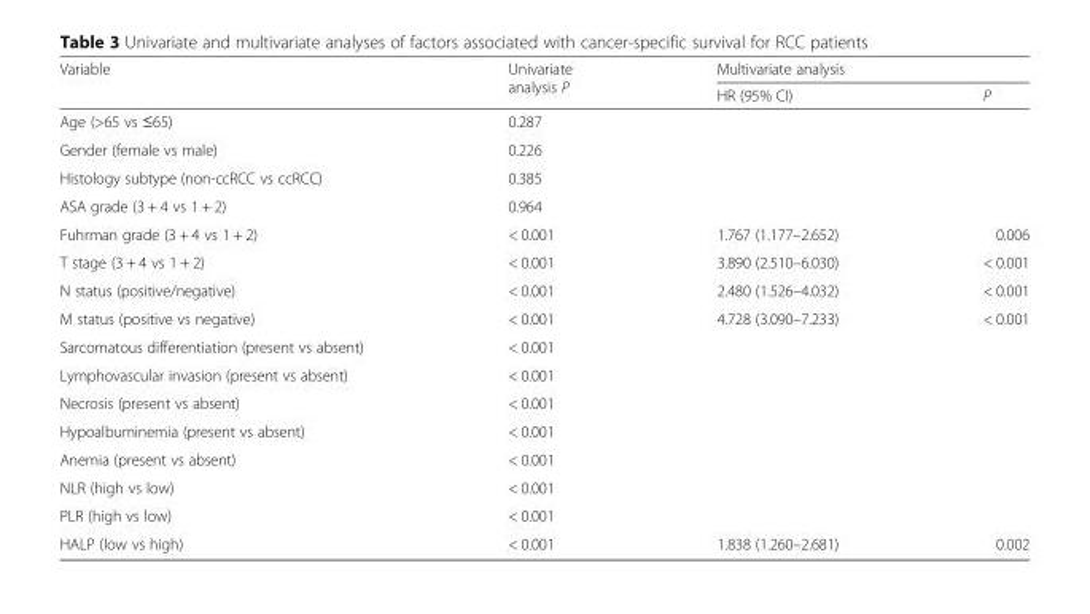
<table><thead><tr><td rowspan="2">Variable</td><td rowspan="2">Univariate analysis P</td><td colspan="2">Multivariate analysis</td></tr><tr><td>HR (95% CI)</td><td>P</td></tr></thead><tbody><tr><td>Age (&gt;65 vs ≤65)</td><td>0.287</td><td></td><td></td></tr><tr><td>Gender (female vs male)</td><td>0.226</td><td></td><td></td></tr><tr><td>Histology subtype (non-ccRCC vs ccRCC)</td><td>0.385</td><td></td><td></td></tr><tr><td>ASA grade (3 + 4 vs 1 + 2)</td><td>0.964</td><td></td><td></td></tr><tr><td>Fuhrman grade (3 + 4 vs 1 + 2)</td><td>&lt; 0.001</td><td>1.767 (1.177–2.652)</td><td>0.006</td></tr><tr><td>T stage (3 + 4 vs 1 + 2)</td><td>&lt; 0.001</td><td>3.890 (2.510–6.030)</td><td>&lt; 0.001</td></tr><tr><td>N status (positive/negative)</td><td>&lt; 0.001</td><td>2.480 (1.526–4.032)</td><td>&lt; 0.001</td></tr><tr><td>M status (positive vs negative)</td><td>&lt; 0.001</td><td>4.728 (3.090–7.233)</td><td>&lt; 0.001</td></tr><tr><td>Sarcomatous differentiation (present vs absent)</td><td>&lt; 0.001</td><td></td><td></td></tr><tr><td>Lymphovascular invasion (present vs absent)</td><td>&lt; 0.001</td><td></td><td></td></tr><tr><td>Necrosis (present vs absent)</td><td>&lt; 0.001</td><td></td><td></td></tr><tr><td>Hypoalbuminemia (present vs absent)</td><td>&lt; 0.001</td><td></td><td></td></tr><tr><td>Anemia (present vs absent)</td><td>&lt; 0.001</td><td></td><td></td></tr><tr><td>NLR (high vs low)</td><td>&lt; 0.001</td><td></td><td></td></tr><tr><td>PLR (high vs low)</td><td>&lt; 0.001</td><td></td><td></td></tr><tr><td>HALP (low vs high)</td><td>&lt; 0.001</td><td>1.838 (1.260–2.681)</td><td>0.002</td></tr></tbody></table>